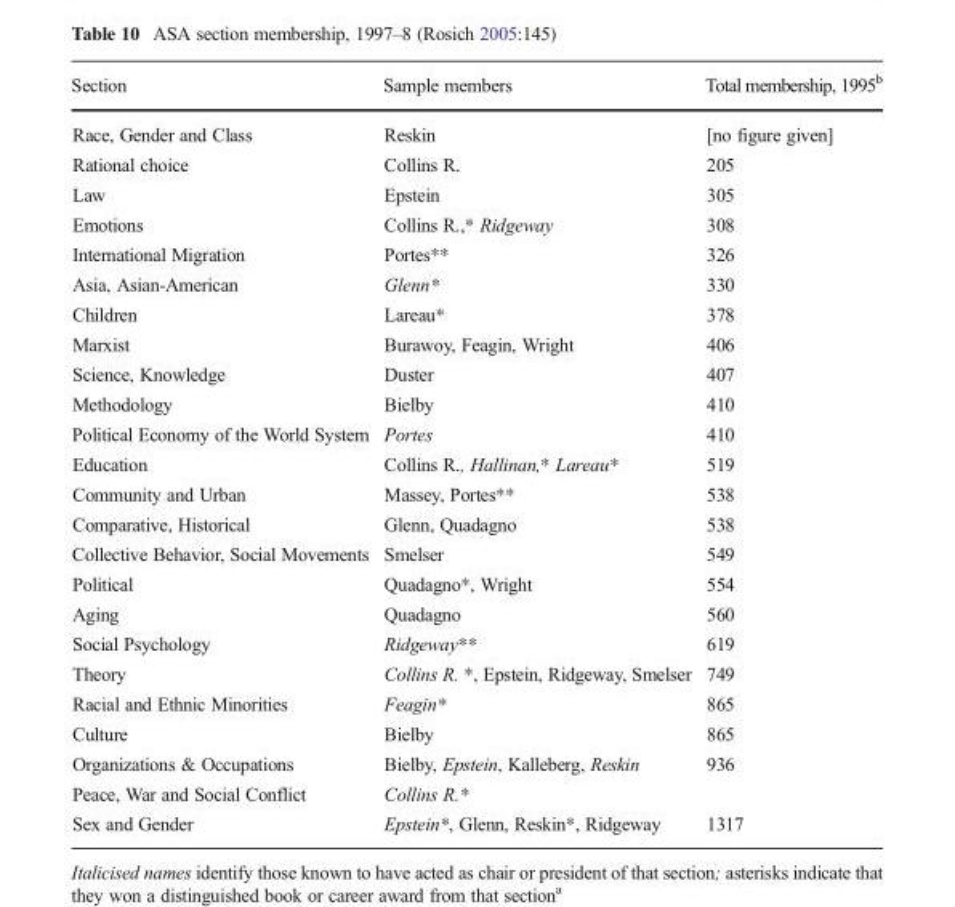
<table><thead><tr><td>Section</td><td>Sample members</td><td>Total membership, 1995<sup>b</sup></td></tr></thead><tbody><tr><td>Race, Gender and Class</td><td>Reskin</td><td>[no figure given]</td></tr><tr><td>Rational choice</td><td>Collins R.</td><td>205</td></tr><tr><td>Law</td><td>Epstein</td><td>305</td></tr><tr><td>Emotions</td><td>Collins R.,* Ridgeway</td><td>308</td></tr><tr><td>International Migration</td><td>Portes**</td><td>326</td></tr><tr><td>Asia, Asian-American</td><td>Glenn*</td><td>330</td></tr><tr><td>Children</td><td>Lareau*</td><td>378</td></tr><tr><td>Marxist</td><td>Burawoy, Feagin, Wright</td><td>406</td></tr><tr><td>Science, Knowledge</td><td>Duster</td><td>407</td></tr><tr><td>Methodology</td><td>Bielby</td><td>410</td></tr><tr><td>Political Economy of the World System</td><td>Portes</td><td>410</td></tr><tr><td>Education</td><td>Collins R., Hallinan,* Lareau*</td><td>519</td></tr><tr><td>Community and Urban</td><td>Massey, Portes**</td><td>538</td></tr><tr><td>Comparative, Historical</td><td>Glenn, Quadagno</td><td>538</td></tr><tr><td>Collective Behavior, Social Movements</td><td>Smelser</td><td>549</td></tr><tr><td>Political</td><td>Quadagno*, Wright</td><td>554</td></tr><tr><td>Aging</td><td>Quadagno</td><td>560</td></tr><tr><td>Social Psychology</td><td>Ridgeway**</td><td>619</td></tr><tr><td>Theory</td><td>Collins R. *, Epstein, Ridgeway, Smelser</td><td>749</td></tr><tr><td>Racial and Ethnic Minorities</td><td>Feagin*</td><td>865</td></tr><tr><td>Culture</td><td>Bielby</td><td>865</td></tr><tr><td>Organizations &amp; Occupations</td><td>Bielby, Epstein, Kalleberg, Reskin</td><td>936</td></tr><tr><td>Peace, War and Social Conflict</td><td>Collins R.*</td><td></td></tr><tr><td>Sex and Gender</td><td>Epstein*, Glenn, Reskin*, Ridgeway</td><td>1317</td></tr></tbody></table>